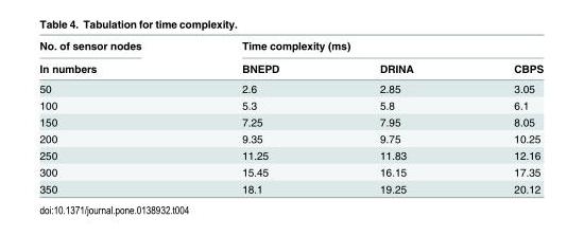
<table><thead><tr><td rowspan="2">No. of sensor nodes In numbers</td><td colspan="3">Time complexity (ms)</td></tr><tr><td>BNEPD</td><td>DRINA</td><td>CBPS</td></tr></thead><tbody><tr><td>50</td><td>2.6</td><td>2.85</td><td>3.05</td></tr><tr><td>100</td><td>5.3</td><td>5.8</td><td>6.1</td></tr><tr><td>150</td><td>7.25</td><td>7.95</td><td>8.05</td></tr><tr><td>200</td><td>9.35</td><td>9.75</td><td>10.25</td></tr><tr><td>250</td><td>11.25</td><td>11.83</td><td>12.16</td></tr><tr><td>300</td><td>15.45</td><td>16.15</td><td>17.35</td></tr><tr><td>350</td><td>18.1</td><td>19.25</td><td>20.12</td></tr></tbody></table>